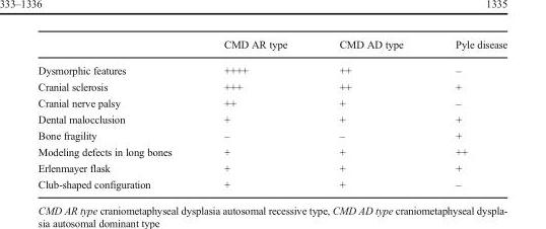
<table><thead><tr><td></td><td>CMD AR type</td><td>CMD AD type</td><td>Pyle disease</td></tr></thead><tbody><tr><td>Dysmorphic features</td><td>++++</td><td>++</td><td>–</td></tr><tr><td>Cranial sclerosis</td><td>+++</td><td>++</td><td>+</td></tr><tr><td>Cranial nerve palsy</td><td>++</td><td>+</td><td>–</td></tr><tr><td>Dental malocclusion</td><td>+</td><td>+</td><td>+</td></tr><tr><td>Bone fragility</td><td>–</td><td>–</td><td>+</td></tr><tr><td>Modeling defects in long bones</td><td>+</td><td>+</td><td>++</td></tr><tr><td>Erlenmayer flask</td><td>+</td><td>+</td><td>+</td></tr><tr><td>Club-shaped configuration</td><td>+</td><td>+</td><td>–</td></tr></tbody></table>